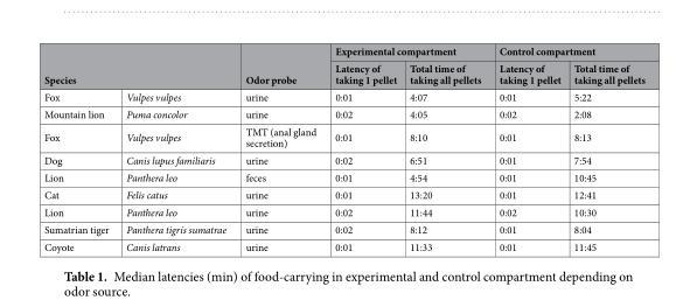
<table><thead><tr><td rowspan="2" colspan="2">Species</td><td rowspan="3">Odor probe urine</td><td colspan="2">Experimental compartment</td><td colspan="2">Control compartment</td></tr><tr><td rowspan="2">Latency of taking 1 pellet 0:01</td><td rowspan="2">Total time of taking all pellets 4:07</td><td rowspan="2">Latency of taking 1 pellet 0:01</td><td rowspan="2">Total time of taking all pellets 5:22</td></tr><tr><td>Fox</td><td>Vulpes vulpes</td></tr></thead><tbody><tr><td>Mountain lion</td><td>Puma concolor</td><td>urine</td><td>0:02</td><td>4:05</td><td>0:02</td><td>2:08</td></tr><tr><td>Fox</td><td>Vulpes vulpes</td><td>TMT (anal gland secretion)</td><td>0:01</td><td>8:10</td><td>0:01</td><td>8:13</td></tr><tr><td>Dog</td><td>Canis lupus familiaris</td><td>urine</td><td>0:02</td><td>6:51</td><td>0:01</td><td>7:54</td></tr><tr><td>Lion</td><td>Panthera leo</td><td>feces</td><td>0:01</td><td>4:54</td><td>0:01</td><td>10:45</td></tr><tr><td>Cat</td><td>Felis catus</td><td>urine</td><td>0:01</td><td>13:20</td><td>0:01</td><td>12:41</td></tr><tr><td>Lion</td><td>Panthera leo</td><td>urine</td><td>0:02</td><td>11:44</td><td>0:02</td><td>10:30</td></tr><tr><td>Sumatrian tiger</td><td>Panthera tigris sumatrae</td><td>urine</td><td>0:02</td><td>8:12</td><td>0:01</td><td>8:04</td></tr><tr><td>Coyote</td><td>Canis latrans</td><td>urine</td><td>0:01</td><td>11:33</td><td>0:01</td><td>11:45</td></tr></tbody></table>